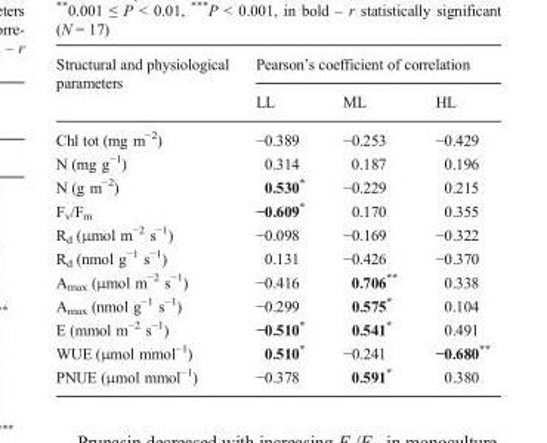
<table><thead><tr><td rowspan="2">Structural and physiological parameters</td><td colspan="3">Pearson’s coefficient of correlation</td></tr><tr><td>LL</td><td>ML</td><td>HL</td></tr></thead><tbody><tr><td>Chl tot (mg m<sup>−2</sup>)</td><td>−0.389</td><td>−0.253</td><td>−0.429</td></tr><tr><td>N (mg g<sup>−1</sup>)</td><td>0.314</td><td>0.187</td><td>0.196</td></tr><tr><td>N (g m<sup>−2</sup>)</td><td>0.530*</td><td>−0.229</td><td>0.215</td></tr><tr><td>F<sub>v</sub>/F<sub>m</sub></td><td>−0.609*</td><td>0.170</td><td>0.355</td></tr><tr><td>R<sub>d</sub> (μmol m<sup>−2</sup> s<sup>−1</sup>)</td><td>−0.098</td><td>−0.169</td><td>−0.322</td></tr><tr><td>R<sub>d</sub> (nmol g<sup>−1</sup> s<sup>−1</sup>)</td><td>0.131</td><td>−0.426</td><td>−0.370</td></tr><tr><td>A<sub>max</sub> (μmol m<sup>−2</sup> s<sup>−1</sup>)</td><td>−0.416</td><td>0.706**</td><td>0.338</td></tr><tr><td>A<sub>max</sub> (nmol g<sup>−1</sup> s<sup>−1</sup>)</td><td>−0.299</td><td>0.575*</td><td>0.104</td></tr><tr><td>E (mmol m<sup>−2</sup> s<sup>−1</sup>)</td><td>−0.510*</td><td>0.541*</td><td>0.491</td></tr><tr><td>WUE (μmol mmol<sup>−1</sup>)</td><td>0.510*</td><td>−0.241</td><td>−0.680**</td></tr><tr><td>PNUE (μmol mmol<sup>−1</sup>)</td><td>−0.378</td><td>0.591*</td><td>0.380</td></tr></tbody></table>